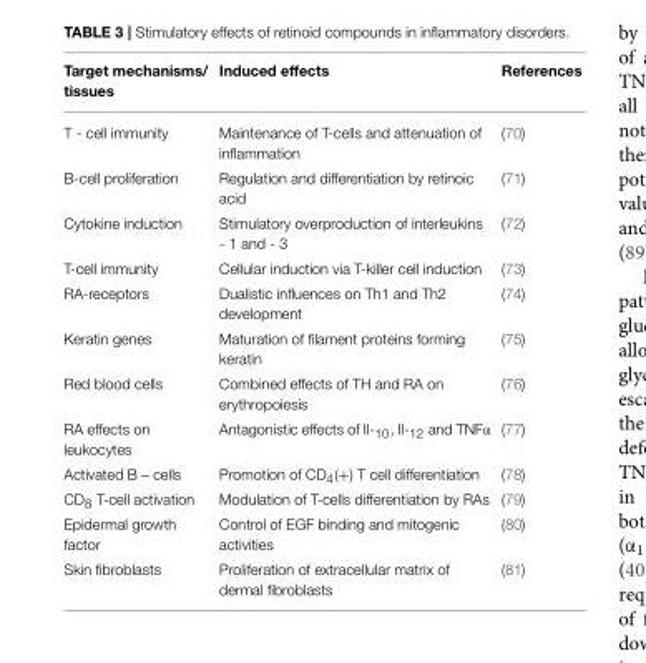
<table><thead><tr><td>Target mechanisms/ tissues</td><td>Induced effects</td><td>References</td></tr></thead><tbody><tr><td>T - cell immunity</td><td>Maintenance of T-cells and attenuation of inflammation</td><td>(70)</td></tr><tr><td>B-cell proliferation</td><td>Regulation and differentiation by retinoic acid</td><td>(71)</td></tr><tr><td>Cytokine induction</td><td>Stimulatory overproduction of interleukins - 1 and - 3</td><td>(72)</td></tr><tr><td>T-cell immunity</td><td>Cellular induction via T-killer cell induction</td><td>(73)</td></tr><tr><td>RA-receptors</td><td>Dualistic influences on Th1 and Th2 development</td><td>(74)</td></tr><tr><td>Keratin genes</td><td>Maturation of filament proteins forming keratin</td><td>(75)</td></tr><tr><td>Red blood cells</td><td>Combined effects of TH and RA on erythropoiesis</td><td>(76)</td></tr><tr><td>RA effects on leukocytes</td><td>Antagonistic effects of Il-<sub>10</sub>, Il-<sub>12</sub> and TNFα</td><td>(77)</td></tr><tr><td>Activated B – cells</td><td>Promotion of CD<sub>4</sub>(+) T cell differentiation</td><td>(78)</td></tr><tr><td>CD<sub>8</sub> T-cell activation</td><td>Modulation of T-cells differentiation by RAs</td><td>(79)</td></tr><tr><td>Epidermal growth factor</td><td>Control of EGF binding and mitogenic activities</td><td>(80)</td></tr><tr><td>Skin fibroblasts</td><td>Proliferation of extracellular matrix of dermal fibroblasts</td><td>(81)</td></tr></tbody></table>